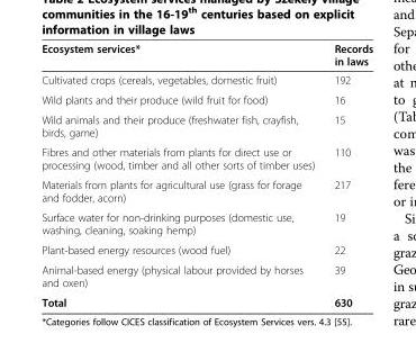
<table><thead><tr><td>Ecosystem services*</td><td>Records in laws</td></tr></thead><tbody><tr><td>Cultivated crops (cereals, vegetables, domestic fruit)</td><td>192</td></tr><tr><td>Wild plants and their produce (wild fruit for food)</td><td>16</td></tr><tr><td>Wild animals and their produce (freshwater fish, crayfish, birds, game)</td><td>15</td></tr><tr><td>Fibres and other materials from plants for direct use or processing (wood, timber and all other sorts of timber uses)</td><td>110</td></tr><tr><td>Materials from plants for agricultural use (grass for forage and fodder, acorn)</td><td>217</td></tr><tr><td>Surface water for non-drinking purposes (domestic use, washing, cleaning, soaking hemp)</td><td>19</td></tr><tr><td>Plant-based energy resources (wood fuel)</td><td>22</td></tr><tr><td>Animal-based energy (physical labour provided by horses and oxen)</td><td>39</td></tr><tr><td>Total</td><td>630</td></tr></tbody></table>